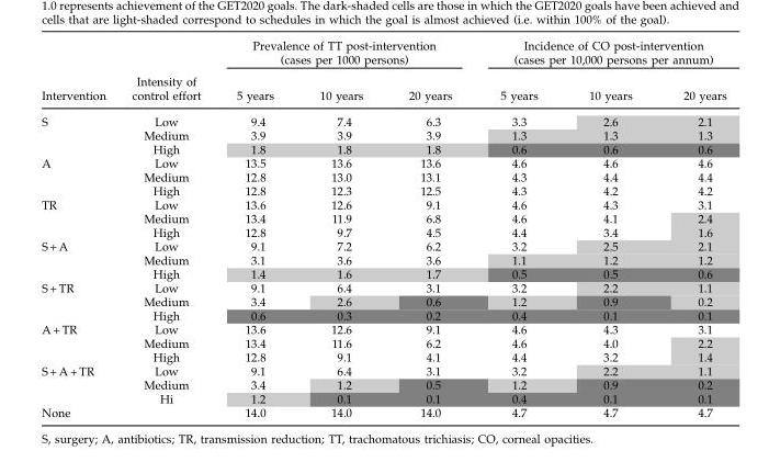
<table><thead><tr><td rowspan="2">Intervention</td><td rowspan="2">Intensity of control effort</td><td colspan="3">Prevalence of TT post-intervention (cases per 1000 persons)</td><td colspan="3">Incidence of CO post-intervention (cases per 10,000 persons per annum)</td></tr><tr><td>5 years</td><td>10 years</td><td>20 years</td><td>5 years</td><td>10 years</td><td>20 years</td></tr></thead><tbody><tr><td rowspan="3">S</td><td>Low</td><td>9.4</td><td>7.4</td><td>6.3</td><td>3.3</td><td>2.6</td><td>2.1</td></tr><tr><td>Medium</td><td>3.9</td><td>3.9</td><td>3.9</td><td>1.3</td><td>1.3</td><td>1.3</td></tr><tr><td>High</td><td>1.8</td><td>1.8</td><td>1.8</td><td>0.6</td><td>0.6</td><td>0.6</td></tr><tr><td rowspan="3">A</td><td>Low</td><td>13.5</td><td>13.6</td><td>13.6</td><td>4.6</td><td>4.6</td><td>4.6</td></tr><tr><td>Medium</td><td>12.8</td><td>13.0</td><td>13.1</td><td>4.3</td><td>4.4</td><td>4.4</td></tr><tr><td>High</td><td>12.8</td><td>12.3</td><td>12.5</td><td>4.3</td><td>4.2</td><td>4.2</td></tr><tr><td rowspan="3">TR</td><td>Low</td><td>13.6</td><td>12.6</td><td>9.1</td><td>4.6</td><td>4.3</td><td>3.1</td></tr><tr><td>Medium</td><td>13.4</td><td>11.9</td><td>6.8</td><td>4.6</td><td>4.1</td><td>2.4</td></tr><tr><td>High</td><td>12.8</td><td>9.7</td><td>4.5</td><td>4.4</td><td>3.4</td><td>1.6</td></tr><tr><td rowspan="3">S + A</td><td>Low</td><td>9.1</td><td>7.2</td><td>6.2</td><td>3.2</td><td>2.5</td><td>2.1</td></tr><tr><td>Medium</td><td>3.1</td><td>3.6</td><td>3.6</td><td>1.1</td><td>1.2</td><td>1.2</td></tr><tr><td>High</td><td>1.4</td><td>1.6</td><td>1.7</td><td>0.5</td><td>0.5</td><td>0.6</td></tr><tr><td rowspan="3">S + TR</td><td>Low</td><td>9.1</td><td>6.4</td><td>3.1</td><td>3.2</td><td>2.2</td><td>1.1</td></tr><tr><td>Medium</td><td>3.4</td><td>2.6</td><td>0.6</td><td>1.2</td><td>0.9</td><td>0.2</td></tr><tr><td>High</td><td>0.6</td><td>0.3</td><td>0.2</td><td>0.4</td><td>0.1</td><td>0.1</td></tr><tr><td rowspan="3">A + TR</td><td>Low</td><td>13.6</td><td>12.6</td><td>9.1</td><td>4.6</td><td>4.3</td><td>3.1</td></tr><tr><td>Medium</td><td>13.4</td><td>11.6</td><td>6.2</td><td>4.6</td><td>4.0</td><td>2.2</td></tr><tr><td>High</td><td>12.8</td><td>9.1</td><td>4.1</td><td>4.4</td><td>3.2</td><td>1.4</td></tr><tr><td rowspan="3">S + A + TR</td><td>Low</td><td>9.1</td><td>6.4</td><td>3.1</td><td>3.2</td><td>2.2</td><td>1.1</td></tr><tr><td>Medium</td><td>3.4</td><td>1.2</td><td>0.5</td><td>1.2</td><td>0.9</td><td>0.2</td></tr><tr><td>Hi</td><td>1.2</td><td>0.1</td><td>0.1</td><td>0.4</td><td>0.1</td><td>0.1</td></tr><tr><td>None</td><td></td><td>14.0</td><td>14.0</td><td>14.0</td><td>4.7</td><td>4.7</td><td>4.7</td></tr></tbody></table>